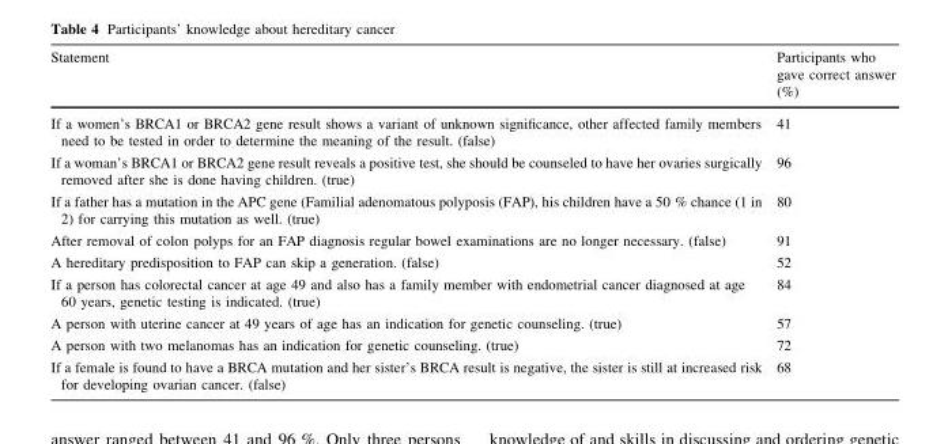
<table><thead><tr><td>Statement</td><td>Participants who gave correct answer (%)</td></tr></thead><tbody><tr><td>If a women’s BRCA1 or BRCA2 gene result shows a variant of unknown significance, other affected family members need to be tested in order to determine the meaning of the result. (false)</td><td>41</td></tr><tr><td>If a woman’s BRCA1 or BRCA2 gene result reveals a positive test, she should be counseled to have her ovaries surgically removed after she is done having children. (true)</td><td>96</td></tr><tr><td>If a father has a mutation in the APC gene (Familial adenomatous polyposis (FAP), his children have a 50 % chance (1 in 2) for carrying this mutation as well. (true)</td><td>80</td></tr><tr><td>After removal of colon polyps for an FAP diagnosis regular bowel examinations are no longer necessary. (false)</td><td>91</td></tr><tr><td>A hereditary predisposition to FAP can skip a generation. (false)</td><td>52</td></tr><tr><td>If a person has colorectal cancer at age 49 and also has a family member with endometrial cancer diagnosed at age 60 years, genetic testing is indicated. (true)</td><td>84</td></tr><tr><td>A person with uterine cancer at 49 years of age has an indication for genetic counseling. (true)</td><td>57</td></tr><tr><td>A person with two melanomas has an indication for genetic counseling. (true)</td><td>72</td></tr><tr><td>If a female is found to have a BRCA mutation and her sister’s BRCA result is negative, the sister is still at increased risk for developing ovarian cancer. (false)</td><td>68</td></tr></tbody></table>